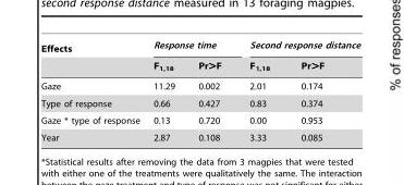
<table><thead><tr><td rowspan="2">Effects</td><td colspan="2">Response time</td><td colspan="2">Second response distance</td></tr><tr><td>F<sub>1,18</sub></td><td>Pr&gt;F</td><td>F<sub>1,18</sub></td><td>Pr&gt;F</td></tr></thead><tbody><tr><td>Gaze</td><td>11.29</td><td>0.002</td><td>2.01</td><td>0.174</td></tr><tr><td>Type of response</td><td>0.66</td><td>0.427</td><td>0.83</td><td>0.374</td></tr><tr><td>Gaze * type of response</td><td>0.13</td><td>0.720</td><td>0.00</td><td>0.953</td></tr><tr><td>Year</td><td>2.87</td><td>0.108</td><td>3.33</td><td>0.085</td></tr></tbody></table>